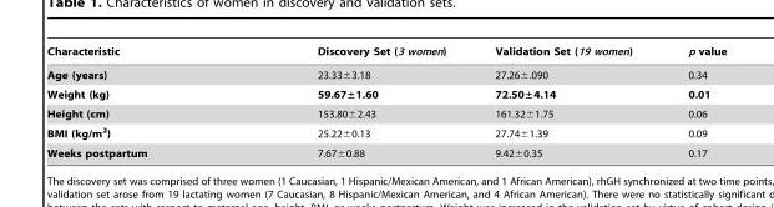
<table><thead><tr><td>Characteristic</td><td>Discovery Set (3 women)</td><td>Validation Set (19 women)</td><td>p value</td></tr></thead><tbody><tr><td>Age (years)</td><td>23.33±3.18</td><td>27.26±.090</td><td>0.34</td></tr><tr><td>Weight (kg)</td><td>59.67±1.60</td><td>72.50±4.14</td><td>0.01</td></tr><tr><td>Height (cm)</td><td>153.80±2.43</td><td>161.32±1.75</td><td>0.06</td></tr><tr><td>BMI (kg/m<sup>2</sup>)</td><td>25.22±0.13</td><td>27.74±1.39</td><td>0.09</td></tr><tr><td>Weeks postpartum</td><td>7.67±0.88</td><td>9.42±0.35</td><td>0.17</td></tr></tbody></table>